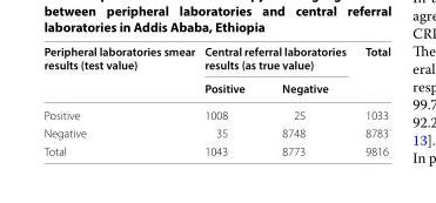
<table><thead><tr><td rowspan="2">Peripheral laboratories smear results (test value)</td><td colspan="2">Central referral laboratories results (as true value)</td><td rowspan="2">Total</td></tr><tr><td>Positive</td><td>Negative</td></tr></thead><tbody><tr><td>Positive</td><td>1008</td><td>25</td><td>1033</td></tr><tr><td>Negative</td><td>35</td><td>8748</td><td>8783</td></tr><tr><td>Total</td><td>1043</td><td>8773</td><td>9816</td></tr></tbody></table>